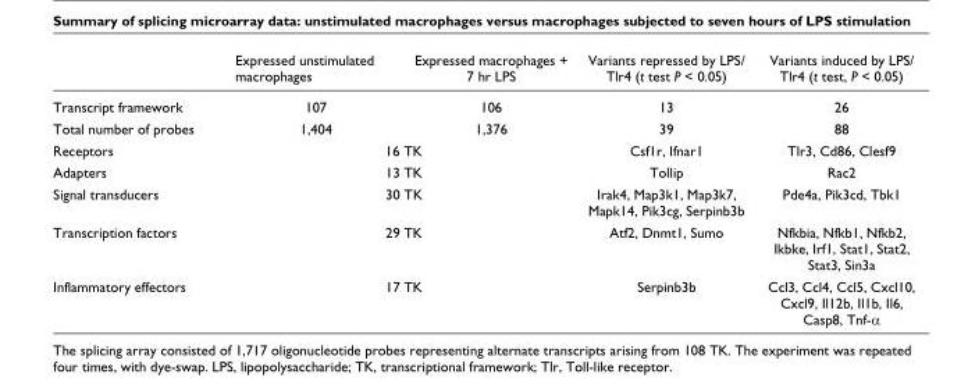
<table><thead><tr><td></td><td>Expressed unstimulated macrophages</td><td>Expressed macrophages + 7 hr LPS</td><td>Variants repressed by LPS/ Tlr4 (t test P &lt; 0.05)</td><td>Variants induced by LPS/ Tlr4 (t test, P &lt; 0.05)</td></tr></thead><tbody><tr><td>Transcript framework</td><td>107</td><td>106</td><td>13</td><td>26</td></tr><tr><td>Total number of probes</td><td>1,404</td><td>1,376</td><td>39</td><td>88</td></tr><tr><td>Receptors</td><td colspan="2">16 TK</td><td>Csf1r, Ifnar1</td><td>Tlr3, Cd86, Clesf9</td></tr><tr><td>Adapters</td><td colspan="2">13 TK</td><td>Tollip</td><td>Rac2</td></tr><tr><td>Signal transducers</td><td colspan="2">30 TK</td><td>Irak4, Map3k1, Map3k7, Mapk14, Pik3cg, Serpinb3b</td><td>Pde4a, Pik3cd, Tbk1</td></tr><tr><td>Transcription factors</td><td colspan="2">29 TK</td><td>Atf2, Dnmt1, Sumo</td><td>Nfkbia, Nfkb1, Nfkb2, Ikbke, Irf1, Stat1, Stat2, Stat3, Sin3a</td></tr><tr><td>Inflammatory effectors</td><td colspan="2">17 TK</td><td>Serpinb3b</td><td>Ccl3, Ccl4, Ccl5, Cxcl10, Cxcl9, Il12b, Il1b, Il6, Casp8, Tnf-α</td></tr></tbody></table>